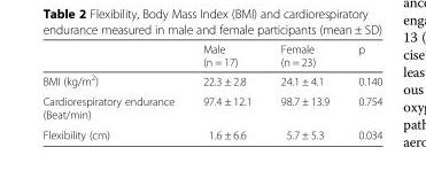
<table><thead><tr><td></td><td>Male (n = 17)</td><td>Female (n = 23)</td><td>p</td></tr></thead><tbody><tr><td>BMI (kg/m<sup>2</sup>)</td><td>22.3 ± 2.8</td><td>24.1 ± 4.1</td><td>0.140</td></tr><tr><td>Cardiorespiratory endurance (Beat/min)</td><td>97.4 ± 12.1</td><td>98.7 ± 13.9</td><td>0.754</td></tr><tr><td>Flexibility (cm)</td><td>1.6 ± 6.6</td><td>5.7 ± 5.3</td><td>0.034</td></tr></tbody></table>